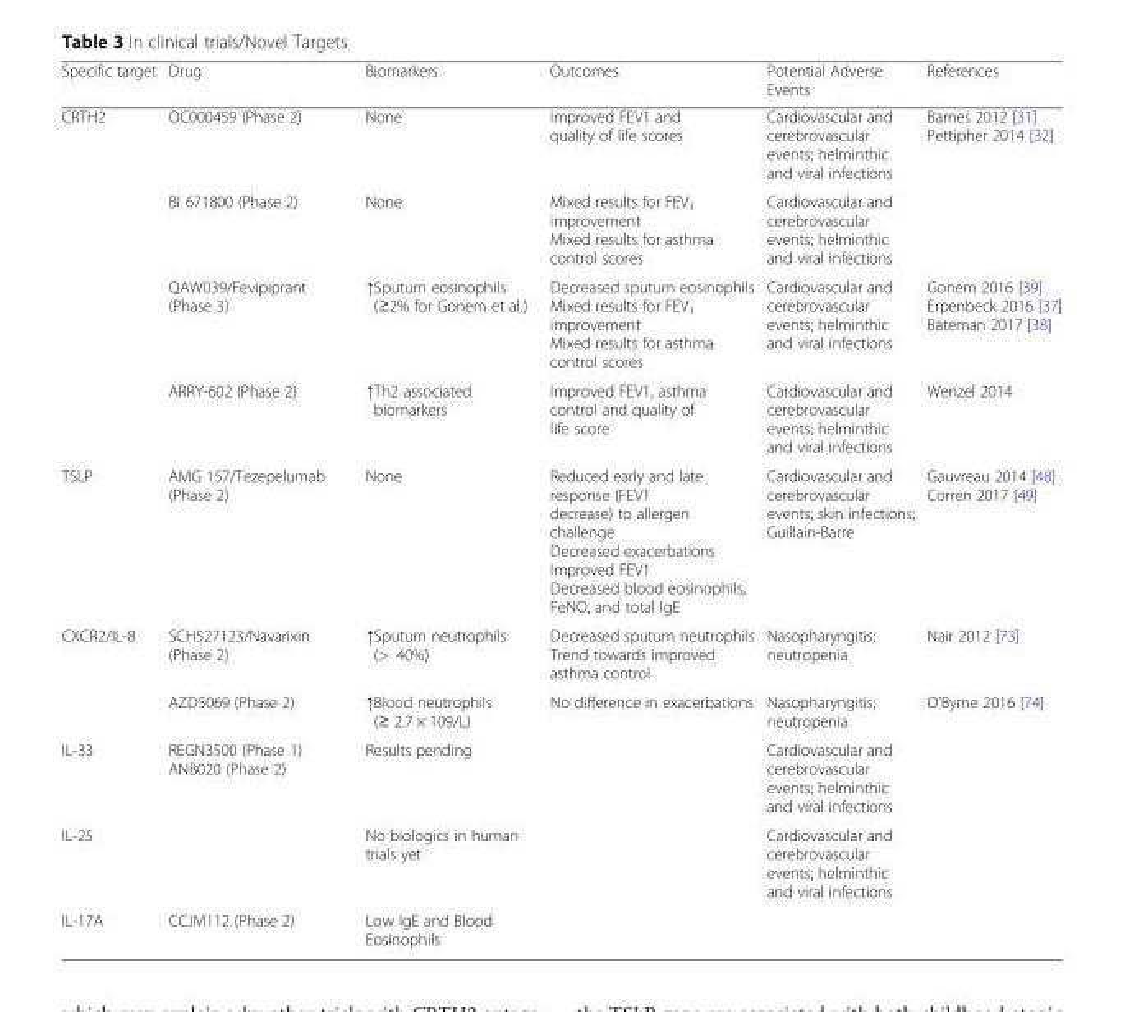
<table><thead><tr><td>Specific target</td><td>Drug</td><td>Biomarkers</td><td>Outcomes</td><td>Potential Adverse Events</td><td>References</td></tr></thead><tbody><tr><td rowspan="4">CRTH2</td><td>OC000459 (Phase 2)</td><td>None</td><td>Improved FEV1 and quality of life scores</td><td>Cardiovascular and cerebrovascular events; helminthic and viral infections</td><td>Barnes 2012 [31] Pettipher 2014 [32]</td></tr><tr><td>BI 671800 (Phase 2)</td><td>None</td><td>Mixed results for FEV<sub>1</sub> improvement Mixed results for asthma control scores</td><td>Cardiovascular and cerebrovascular events; helminthic and viral infections</td><td></td></tr><tr><td>QAW039/Fevipiprant (Phase 3)</td><td>↑Sputum eosinophils (≥2% for Gonem et al.)</td><td>Decreased sputum eosinophils Mixed results for FEV<sub>1</sub> improvement Mixed results for asthma control scores</td><td>Cardiovascular and cerebrovascular events; helminthic and viral infections</td><td>Gonem 2016 [39] Erpenbeck 2016 [37] Bateman 2017 [38]</td></tr><tr><td>ARRY-602 (Phase 2)</td><td>↑Th2 associated biomarkers</td><td>Improved FEV1, asthma control and quality of life score</td><td>Cardiovascular and cerebrovascular events; helminthic and viral infections</td><td>Wenzel 2014</td></tr><tr><td>TSLP</td><td>AMG 157/Tezepelumab (Phase 2)</td><td>None</td><td>Reduced early and late response (FEV1 decrease) to allergen challenge Decreased exacerbations Improved FEV1 Decreased blood eosinophils, FeNO, and total IgE</td><td>Cardiovascular and cerebrovascular events; skin infections; Guillain-Barre</td><td>Gauvreau 2014 [48] Corren 2017 [49]</td></tr><tr><td rowspan="2">CXCR2/IL-8</td><td>SCH527123/Navarixin (Phase 2)</td><td>↑Sputum neutrophils (&gt; 40%)</td><td>Decreased sputum neutrophils Trend towards improved asthma control</td><td>Nasopharyngitis; neutropenia</td><td>Nair 2012 [73]</td></tr><tr><td>AZD5069 (Phase 2)</td><td>↑Blood neutrophils (≥ 2.7 × 109/L)</td><td>No difference in exacerbations</td><td>Nasopharyngitis; neutropenia</td><td>O’Byrne 2016 [74]</td></tr><tr><td>IL-33</td><td>REGN3500 (Phase 1) ANB020 (Phase 2)</td><td>Results pending</td><td></td><td>Cardiovascular and cerebrovascular events; helminthic and viral infections</td><td></td></tr><tr><td>IL-25</td><td></td><td>No biologics in human trials yet</td><td></td><td>Cardiovascular and cerebrovascular events; helminthic and viral infections</td><td></td></tr><tr><td>IL-17A</td><td>CCJM112 (Phase 2)</td><td>Low IgE and Blood Eosinophils</td><td></td><td></td><td></td></tr></tbody></table>